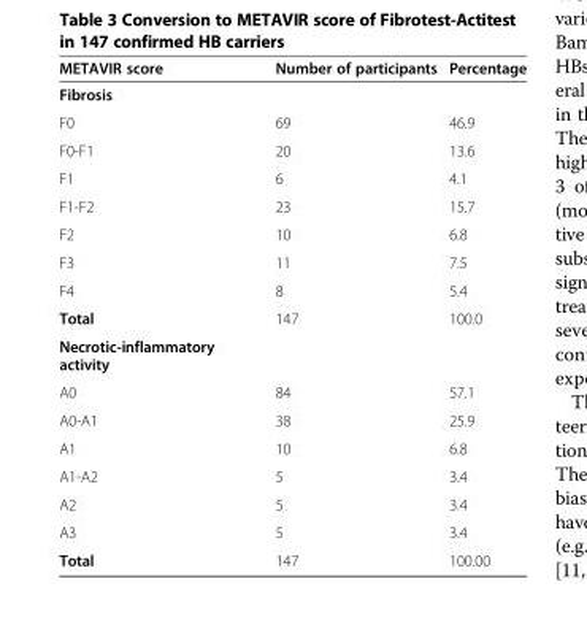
<table><thead><tr><td>METAVIR score</td><td>Number of participants</td><td>Percentage</td></tr></thead><tbody><tr><td colspan="3">Fibrosis</td></tr><tr><td>F0</td><td>69</td><td>46.9</td></tr><tr><td>F0-F1</td><td>20</td><td>13.6</td></tr><tr><td>F1</td><td>6</td><td>4.1</td></tr><tr><td>F1-F2</td><td>23</td><td>15.7</td></tr><tr><td>F2</td><td>10</td><td>6.8</td></tr><tr><td>F3</td><td>11</td><td>7.5</td></tr><tr><td>F4</td><td>8</td><td>5.4</td></tr><tr><td>Total</td><td>147</td><td>100.0</td></tr><tr><td colspan="3">Necrotic-inflammatory activity</td></tr><tr><td>A0</td><td>84</td><td>57.1</td></tr><tr><td>A0-A1</td><td>38</td><td>25.9</td></tr><tr><td>A1</td><td>10</td><td>6.8</td></tr><tr><td>A1-A2</td><td>5</td><td>3.4</td></tr><tr><td>A2</td><td>5</td><td>3.4</td></tr><tr><td>A3</td><td>5</td><td>3.4</td></tr><tr><td>Total</td><td>147</td><td>100.00</td></tr></tbody></table>